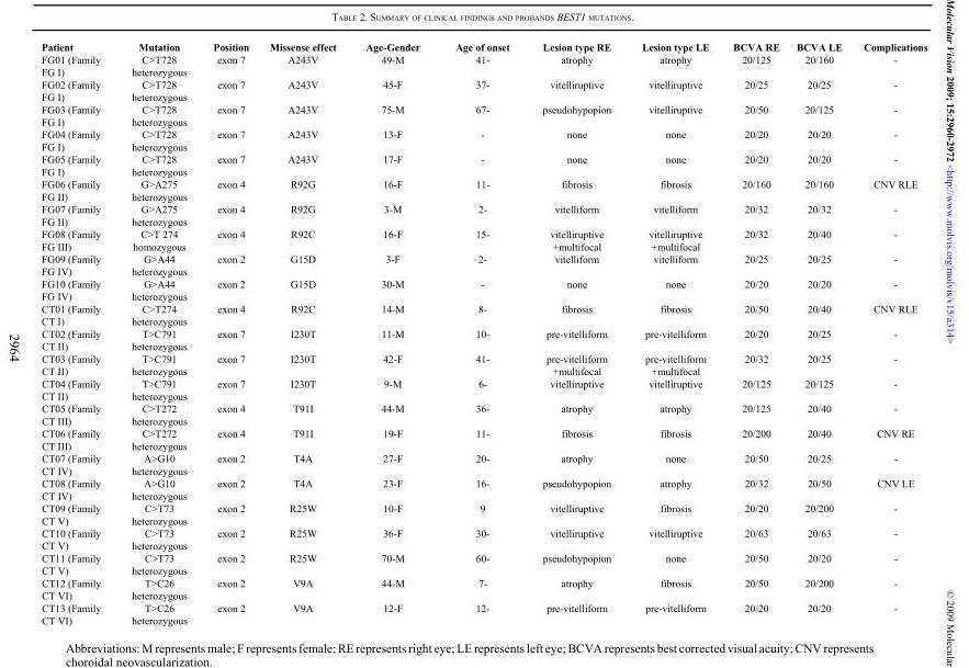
<table><thead><tr><td>Patient</td><td>Mutation</td><td>Position</td><td>Missense effect</td><td>Age-Gender</td><td>Age of onset</td><td>Lesion type RE</td><td>Lesion type LE</td><td>BCVA RE</td><td>BCVA LE</td><td>Complications</td></tr></thead><tbody><tr><td>FG01 (Family FG I)</td><td>C&gt;T728 heterozygous</td><td>exon 7</td><td>A243V</td><td>49-M</td><td>41-</td><td>atrophy</td><td>atrophy</td><td>20/125</td><td>20/160</td><td>-</td></tr><tr><td>FG02 (Family FG I)</td><td>C&gt;T728 heterozygous</td><td>exon 7</td><td>A243V</td><td>45-F</td><td>37-</td><td>vitelliruptive</td><td>vitelliruptive</td><td>20/25</td><td>20/25</td><td>-</td></tr><tr><td>FG03 (Family FG I)</td><td>C&gt;T728 heterozygous</td><td>exon 7</td><td>A243V</td><td>75-M</td><td>67-</td><td>pseudohypopion</td><td>vitelliruptive</td><td>20/50</td><td>20/125</td><td>-</td></tr><tr><td>FG04 (Family FG I)</td><td>C&gt;T728 heterozygous</td><td>exon 7</td><td>A243V</td><td>13-F</td><td>-</td><td>none</td><td>none</td><td>20/20</td><td>20/20</td><td>-</td></tr><tr><td>FG05 (Family FG I)</td><td>C&gt;T728 heterozygous</td><td>exon 7</td><td>A243V</td><td>17-F</td><td>-</td><td>none</td><td>none</td><td>20/20</td><td>20/20</td><td>-</td></tr><tr><td>FG06 (Family FG II)</td><td>G&gt;A275 heterozygous</td><td>exon 4</td><td>R92G</td><td>16-F</td><td>11-</td><td>fibrosis</td><td>fibrosis</td><td>20/160</td><td>20/160</td><td>CNV RLE</td></tr><tr><td>FG07 (Family FG II)</td><td>G&gt;A275 heterozygous</td><td>exon 4</td><td>R92G</td><td>3-M</td><td>2-</td><td>vitelliform</td><td>vitelliform</td><td>20/32</td><td>20/32</td><td>-</td></tr><tr><td>FG08 (Family FG III)</td><td>C&gt;T 274 homozygous</td><td>exon 4</td><td>R92C</td><td>16-F</td><td>15-</td><td>vitelliruptive +multifocal</td><td>vitelliruptive +multifocal</td><td>20/32</td><td>20/40</td><td>-</td></tr><tr><td>FG09 (Family FG IV)</td><td>G&gt;A44 heterozygous</td><td>exon 2</td><td>G15D</td><td>3-F</td><td>2-</td><td>vitelliform</td><td>vitelliform</td><td>20/25</td><td>20/25</td><td>-</td></tr><tr><td>FG10 (Family FG IV)</td><td>G&gt;A44 heterozygous</td><td>exon 2</td><td>G15D</td><td>30-M</td><td>-</td><td>none</td><td>none</td><td>20/20</td><td>20/20</td><td>-</td></tr><tr><td>CT01 (Family CT I)</td><td>C&gt;T274 heterozygous</td><td>exon 4</td><td>R92C</td><td>14-M</td><td>8-</td><td>fibrosis</td><td>fibrosis</td><td>20/50</td><td>20/40</td><td>CNV RLE</td></tr><tr><td>CT02 (Family CT II)</td><td>T&gt;C791 heterozygous</td><td>exon 7</td><td>I230T</td><td>11-M</td><td>10-</td><td>pre-vitelliform</td><td>pre-vitelliform</td><td>20/20</td><td>20/25</td><td>-</td></tr><tr><td>CT03 (Family CT II)</td><td>T&gt;C791 heterozygous</td><td>exon 7</td><td>I230T</td><td>42-F</td><td>41-</td><td>pre-vitelliform +multifocal</td><td>pre-vitelliform +multifocal</td><td>20/32</td><td>20/25</td><td>-</td></tr><tr><td>CT04 (Family CT II)</td><td>T&gt;C791 heterozygous</td><td>exon 7</td><td>I230T</td><td>9-M</td><td>6-</td><td>vitelliruptive</td><td>vitelliruptive</td><td>20/125</td><td>20/125</td><td>-</td></tr><tr><td>CT05 (Family CT III)</td><td>C&gt;T272 heterozygous</td><td>exon 4</td><td>T91I</td><td>44-M</td><td>36-</td><td>atrophy</td><td>atrophy</td><td>20/125</td><td>20/40</td><td>-</td></tr><tr><td>CT06 (Family CT III)</td><td>C&gt;T272 heterozygous</td><td>exon 4</td><td>T91I</td><td>19-F</td><td>11-</td><td>fibrosis</td><td>fibrosis</td><td>20/200</td><td>20/40</td><td>CNV RE</td></tr><tr><td>CT07 (Family CT IV)</td><td>A&gt;G10 heterozygous</td><td>exon 2</td><td>T4A</td><td>27-F</td><td>20-</td><td>atrophy</td><td>none</td><td>20/50</td><td>20/25</td><td>-</td></tr><tr><td>CT08 (Family CT IV)</td><td>A&gt;G10 heterozygous</td><td>exon 2</td><td>T4A</td><td>23-F</td><td>16-</td><td>pseudohypopion</td><td>atrophy</td><td>20/32</td><td>20/50</td><td>CNV LE</td></tr><tr><td>CT09 (Family CT V)</td><td>C&gt;T73 heterozygous</td><td>exon 2</td><td>R25W</td><td>10-F</td><td>9</td><td>vitelliruptive</td><td>fibrosis</td><td>20/20</td><td>20/200</td><td>-</td></tr><tr><td>CT10 (Family CT V)</td><td>C&gt;T73 heterozygous</td><td>exon 2</td><td>R25W</td><td>36-F</td><td>30-</td><td>vitelliruptive</td><td>vitelliruptive</td><td>20/63</td><td>20/63</td><td>-</td></tr><tr><td>CT11 (Family CT V)</td><td>C&gt;T73 heterozygous</td><td>exon 2</td><td>R25W</td><td>70-M</td><td>60-</td><td>pseudohypopion</td><td>none</td><td>20/50</td><td>20/20</td><td>-</td></tr><tr><td>CT12 (Family CT VI)</td><td>T&gt;C26 heterozygous</td><td>exon 2</td><td>V9A</td><td>44-M</td><td>7-</td><td>atrophy</td><td>fibrosis</td><td>20/50</td><td>20/200</td><td>-</td></tr><tr><td>CT13 (Family CT VI)</td><td>T&gt;C26 heterozygous</td><td>exon 2</td><td>V9A</td><td>12-F</td><td>12-</td><td>pre-vitelliform</td><td>pre-vitelliform</td><td>20/20</td><td>20/20</td><td>-</td></tr></tbody></table>